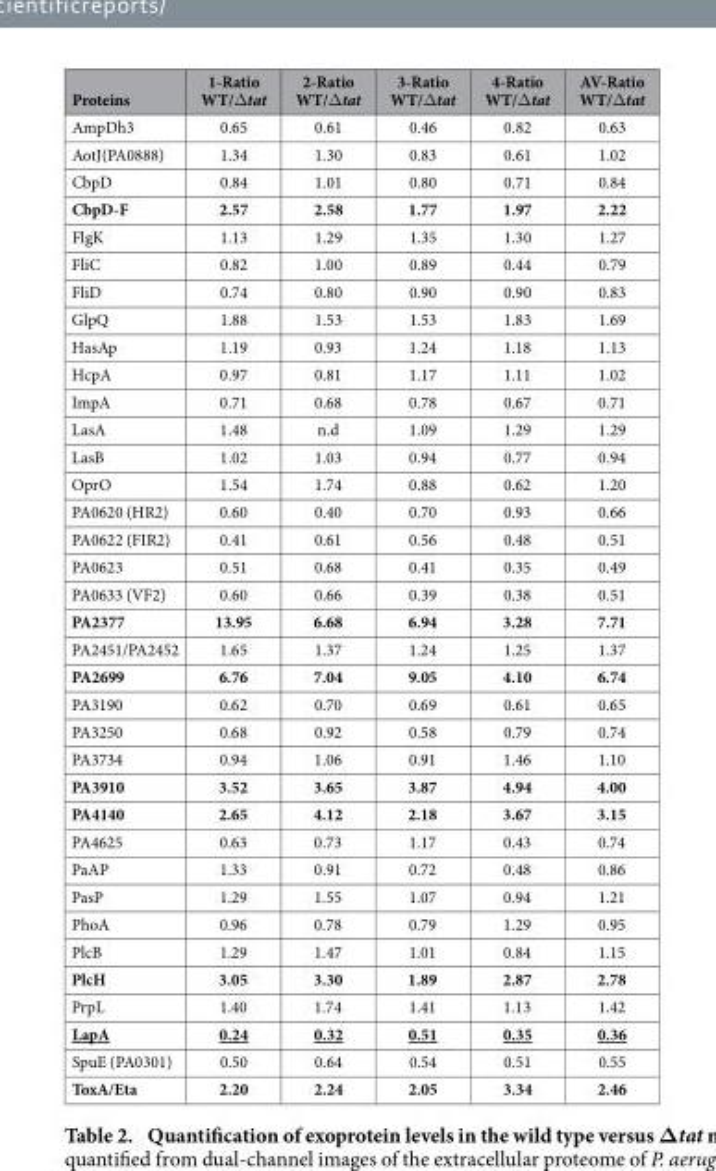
<table><thead><tr><td>Proteins</td><td>1-Ratio WT/Δ tat</td><td>2-Ratio WT/Δ tat</td><td>3-Ratio WT/Δ tat</td><td>4-Ratio WT/Δ tat</td><td>AV-Ratio WT/Δ tat</td></tr></thead><tbody><tr><td>AmpDh3</td><td>0.65</td><td>0.61</td><td>0.46</td><td>0.82</td><td>0.63</td></tr><tr><td>AotJ(PA0888)</td><td>1.34</td><td>1.30</td><td>0.83</td><td>0.61</td><td>1.02</td></tr><tr><td>CbpD</td><td>0.84</td><td>1.01</td><td>0.80</td><td>0.71</td><td>0.84</td></tr><tr><td>CbpD-F</td><td>2.57</td><td>2.58</td><td>1.77</td><td>1.97</td><td>2.22</td></tr><tr><td>FlgK</td><td>1.13</td><td>1.29</td><td>1.35</td><td>1.30</td><td>1.27</td></tr><tr><td>FliC</td><td>0.82</td><td>1.00</td><td>0.89</td><td>0.44</td><td>0.79</td></tr><tr><td>FliD</td><td>0.74</td><td>0.80</td><td>0.90</td><td>0.90</td><td>0.83</td></tr><tr><td>GlpQ</td><td>1.88</td><td>1.53</td><td>1.53</td><td>1.83</td><td>1.69</td></tr><tr><td>HasAp</td><td>1.19</td><td>0.93</td><td>1.24</td><td>1.18</td><td>1.13</td></tr><tr><td>HcpA</td><td>0.97</td><td>0.81</td><td>1.17</td><td>1.11</td><td>1.02</td></tr><tr><td>ImpA</td><td>0.71</td><td>0.68</td><td>0.78</td><td>0.67</td><td>0.71</td></tr><tr><td>LasA</td><td>1.48</td><td>n.d</td><td>1.09</td><td>1.29</td><td>1.29</td></tr><tr><td>LasB</td><td>1.02</td><td>1.03</td><td>0.94</td><td>0.77</td><td>0.94</td></tr><tr><td>OprO</td><td>1.54</td><td>1.74</td><td>0.88</td><td>0.62</td><td>1.20</td></tr><tr><td>PA0620 (HR2)</td><td>0.60</td><td>0.40</td><td>0.70</td><td>0.93</td><td>0.66</td></tr><tr><td>PA0622 (FIR2)</td><td>0.41</td><td>0.61</td><td>0.56</td><td>0.48</td><td>0.51</td></tr><tr><td>PA0623</td><td>0.51</td><td>0.68</td><td>0.41</td><td>0.35</td><td>0.49</td></tr><tr><td>PA0633 (VF2)</td><td>0.60</td><td>0.66</td><td>0.39</td><td>0.38</td><td>0.51</td></tr><tr><td>PA2377</td><td>13.95</td><td>6.68</td><td>6.94</td><td>3.28</td><td>7.71</td></tr><tr><td>PA2451/PA2452</td><td>1.65</td><td>1.37</td><td>1.24</td><td>1.25</td><td>1.37</td></tr><tr><td>PA2699</td><td>6.76</td><td>7.04</td><td>9.05</td><td>4.10</td><td>6.74</td></tr><tr><td>PA3190</td><td>0.62</td><td>0.70</td><td>0.69</td><td>0.61</td><td>0.65</td></tr><tr><td>PA3250</td><td>0.68</td><td>0.92</td><td>0.58</td><td>0.79</td><td>0.74</td></tr><tr><td>PA3734</td><td>0.94</td><td>1.06</td><td>0.91</td><td>1.46</td><td>1.10</td></tr><tr><td>PA3910</td><td>3.52</td><td>3.65</td><td>3.87</td><td>4.94</td><td>4.00</td></tr><tr><td>PA4140</td><td>2.65</td><td>4.12</td><td>2.18</td><td>3.67</td><td>3.15</td></tr><tr><td>PA4625</td><td>0.63</td><td>0.73</td><td>1.17</td><td>0.43</td><td>0.74</td></tr><tr><td>PaAP</td><td>1.33</td><td>0.91</td><td>0.72</td><td>0.48</td><td>0.86</td></tr><tr><td>PasP</td><td>1.29</td><td>1.55</td><td>1.07</td><td>0.94</td><td>1.21</td></tr><tr><td>PhoA</td><td>0.96</td><td>0.78</td><td>0.79</td><td>1.29</td><td>0.95</td></tr><tr><td>PlcB</td><td>1.29</td><td>1.47</td><td>1.01</td><td>0.84</td><td>1.15</td></tr><tr><td>PlcH</td><td>3.05</td><td>3.30</td><td>1.89</td><td>2.87</td><td>2.78</td></tr><tr><td>PrpL</td><td>1.40</td><td>1.74</td><td>1.41</td><td>1.13</td><td>1.42</td></tr><tr><td>LapA</td><td>0.24</td><td>0.32</td><td>0.51</td><td>0.35</td><td>0.36</td></tr><tr><td>SpuE (PA0301)</td><td>0.50</td><td>0.64</td><td>0.54</td><td>0.51</td><td>0.55</td></tr><tr><td>ToxA/Eta</td><td>2.20</td><td>2.24</td><td>2.05</td><td>3.34</td><td>2.46</td></tr></tbody></table>